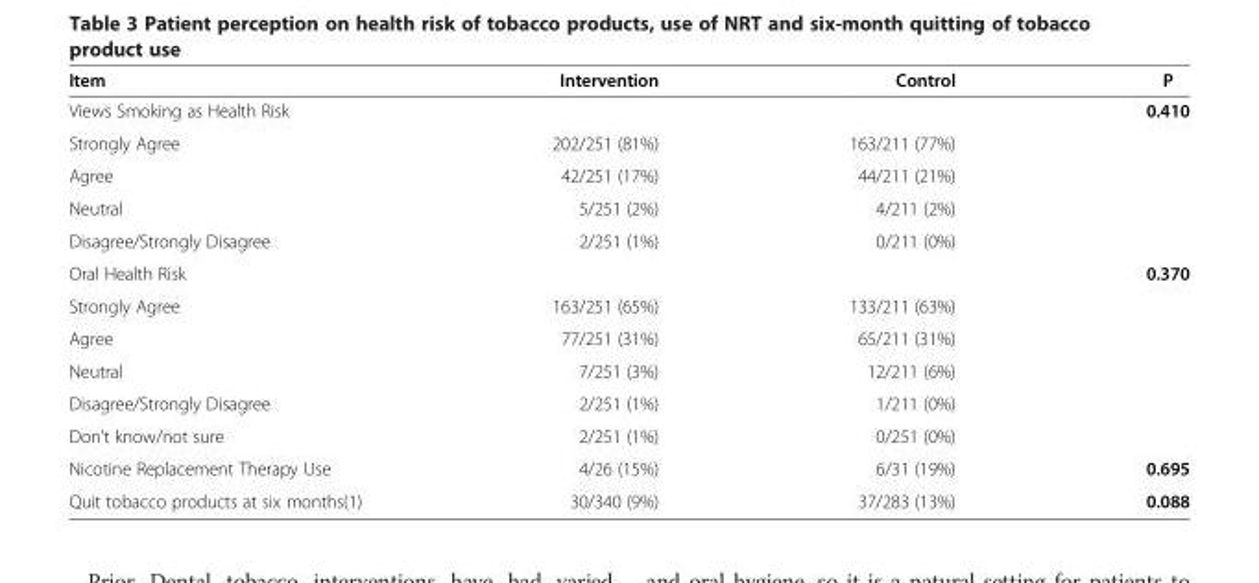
<table><thead><tr><td>Item</td><td>Intervention</td><td>Control</td><td>P</td></tr></thead><tbody><tr><td>Views Smoking as Health Risk</td><td></td><td></td><td>0.410</td></tr><tr><td>Strongly Agree</td><td>202/251 (81%)</td><td>163/211 (77%)</td><td></td></tr><tr><td>Agree</td><td>42/251 (17%)</td><td>44/211 (21%)</td><td></td></tr><tr><td>Neutral</td><td>5/251 (2%)</td><td>4/211 (2%)</td><td></td></tr><tr><td>Disagree/Strongly Disagree</td><td>2/251 (1%)</td><td>0/211 (0%)</td><td></td></tr><tr><td>Oral Health Risk</td><td></td><td></td><td>0.370</td></tr><tr><td>Strongly Agree</td><td>163/251 (65%)</td><td>133/211 (63%)</td><td></td></tr><tr><td>Agree</td><td>77/251 (31%)</td><td>65/211 (31%)</td><td></td></tr><tr><td>Neutral</td><td>7/251 (3%)</td><td>12/211 (6%)</td><td></td></tr><tr><td>Disagree/Strongly Disagree</td><td>2/251 (1%)</td><td>1/211 (0%)</td><td></td></tr><tr><td>Don’t know/not sure</td><td>2/251 (1%)</td><td>0/251 (0%)</td><td></td></tr><tr><td>Nicotine Replacement Therapy Use</td><td>4/26 (15%)</td><td>6/31 (19%)</td><td>0.695</td></tr><tr><td>Quit tobacco products at six months(1)</td><td>30/340 (9%)</td><td>37/283 (13%)</td><td>0.088</td></tr></tbody></table>